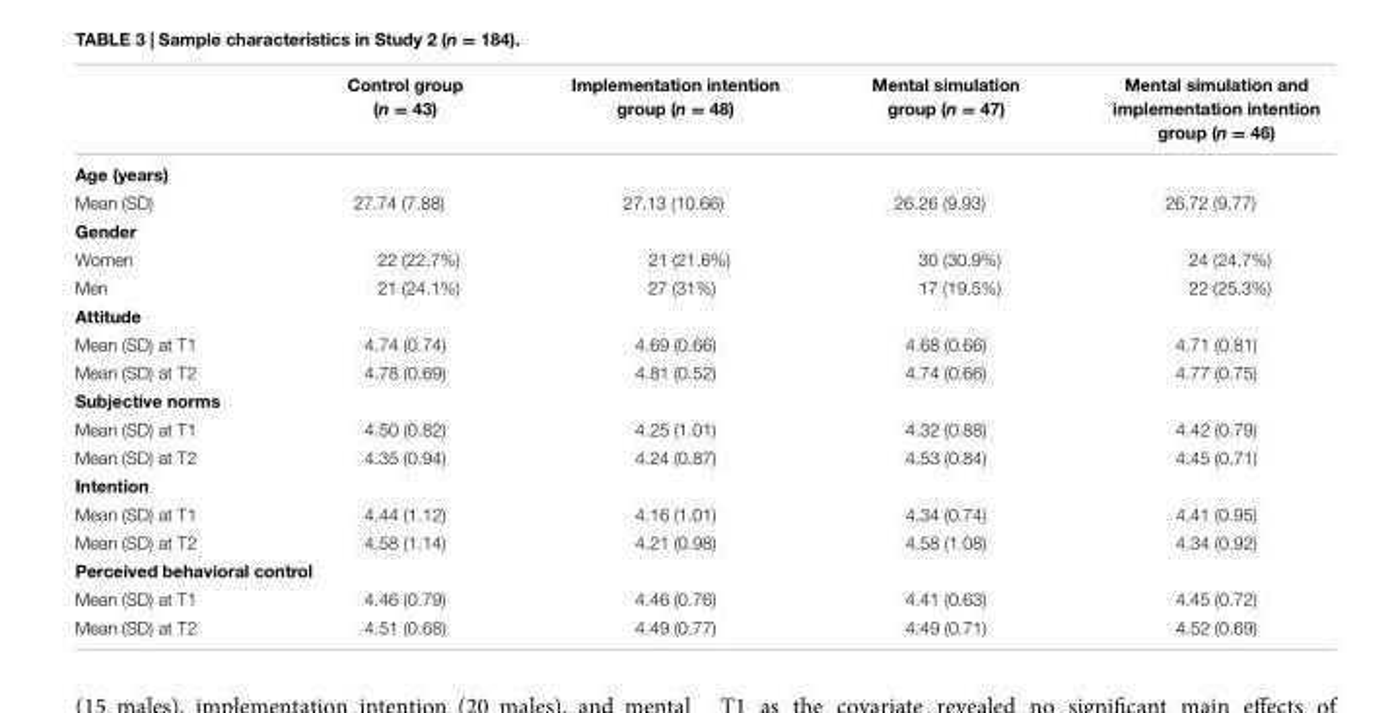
<table><thead><tr><td></td><td>Control group (n = 43)</td><td>Implementation intention group (n = 48)</td><td>Mental simulation group (n = 47)</td><td>Mental simulation and implementation intention group (n = 46)</td></tr></thead><tbody><tr><td colspan="5">Age (years)</td></tr><tr><td>Mean (SD)</td><td>27.74 (7.88)</td><td>27.13 (10.66)</td><td>26.26 (9.93)</td><td>26.72 (9.77)</td></tr><tr><td colspan="5">Gender</td></tr><tr><td>Women</td><td>22 (22.7%)</td><td>21 (21.6%)</td><td>30 (30.9%)</td><td>24 (24.7%)</td></tr><tr><td>Men</td><td>21 (24.1%)</td><td>27 (31%)</td><td>17 (19.5%)</td><td>22 (25.3%)</td></tr><tr><td colspan="5">Attitude</td></tr><tr><td>Mean (SD) at T1</td><td>4.74 (0.74)</td><td>4.69 (0.66)</td><td>4.68 (0.66)</td><td>4.71 (0.81)</td></tr><tr><td>Mean (SD) at T2</td><td>4.78 (0.69)</td><td>4.81 (0.52)</td><td>4.74 (0.66)</td><td>4.77 (0.75)</td></tr><tr><td colspan="5">Subjective norms</td></tr><tr><td>Mean (SD) at T1</td><td>4.50 (0.82)</td><td>4.25 (1.01)</td><td>4.32 (0.88)</td><td>4.42 (0.79)</td></tr><tr><td>Mean (SD) at T2</td><td>4.35 (0.94)</td><td>4.24 (0.87)</td><td>4.53 (0.84)</td><td>4.45 (0.71)</td></tr><tr><td colspan="5">Intention</td></tr><tr><td>Mean (SD) at T1</td><td>4.44 (1.12)</td><td>4.16 (1.01)</td><td>4.34 (0.74)</td><td>4.41 (0.95)</td></tr><tr><td>Mean (SD) at T2</td><td>4.58 (1.14)</td><td>4.21 (0.98)</td><td>4.58 (1.08)</td><td>4.34 (0.92)</td></tr><tr><td colspan="5">Perceived behavioral control</td></tr><tr><td>Mean (SD) at T1</td><td>4.46 (0.79)</td><td>4.46 (0.76)</td><td>4.41 (0.63)</td><td>4.45 (0.72)</td></tr><tr><td>Mean (SD) at T2</td><td>4.51 (0.68)</td><td>4.49 (0.77)</td><td>4.49 (0.71)</td><td>4.52 (0.69)</td></tr></tbody></table>